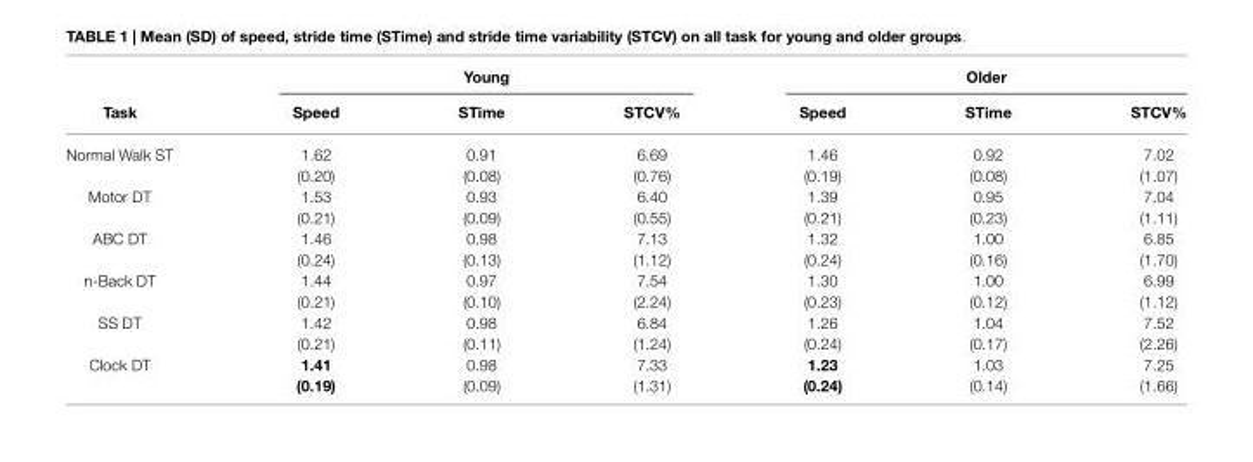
<table><thead><tr><td rowspan="2">Task</td><td colspan="3">Young</td><td colspan="3">Older</td></tr><tr><td>Speed</td><td>STime</td><td>STCV%</td><td>Speed</td><td>STime</td><td>STCV%</td></tr></thead><tbody><tr><td rowspan="2">Normal Walk ST</td><td>1.62</td><td>0.91</td><td>6.69</td><td>1.46</td><td>0.92</td><td>7.02</td></tr><tr><td>(0.20)</td><td>(0.08)</td><td>(0.76)</td><td>(0.19)</td><td>(0.08)</td><td>(1.07)</td></tr><tr><td rowspan="2">Motor DT</td><td>1.53</td><td>0.93</td><td>6.40</td><td>1.39</td><td>0.95</td><td>7.04</td></tr><tr><td>(0.21)</td><td>(0.09)</td><td>(0.55)</td><td>(0.21)</td><td>(0.23)</td><td>(1.11)</td></tr><tr><td rowspan="2">ABC DT</td><td>1.46</td><td>0.98</td><td>7.13</td><td>1.32</td><td>1.00</td><td>6.85</td></tr><tr><td>(0.24)</td><td>(0.13)</td><td>(1.12)</td><td>(0.24)</td><td>(0.16)</td><td>(1.70)</td></tr><tr><td rowspan="2">n-Back DT</td><td>1.44</td><td>0.97</td><td>7.54</td><td>1.30</td><td>1.00</td><td>6.99</td></tr><tr><td>(0.21)</td><td>(0.10)</td><td>(2.24)</td><td>(0.23)</td><td>(0.12)</td><td>(1.12)</td></tr><tr><td rowspan="2">SS DT</td><td>1.42</td><td>0.98</td><td>6.84</td><td>1.26</td><td>1.04</td><td>7.52</td></tr><tr><td>(0.21)</td><td>(0.11)</td><td>(1.24)</td><td>(0.24)</td><td>(0.17)</td><td>(2.26)</td></tr><tr><td rowspan="2">Clock DT</td><td>1.41</td><td>0.98</td><td>7.33</td><td>1.23</td><td>1.03</td><td>7.25</td></tr><tr><td>(0.19)</td><td>(0.09)</td><td>(1.31)</td><td>(0.24)</td><td>(0.14)</td><td>(1.66)</td></tr></tbody></table>